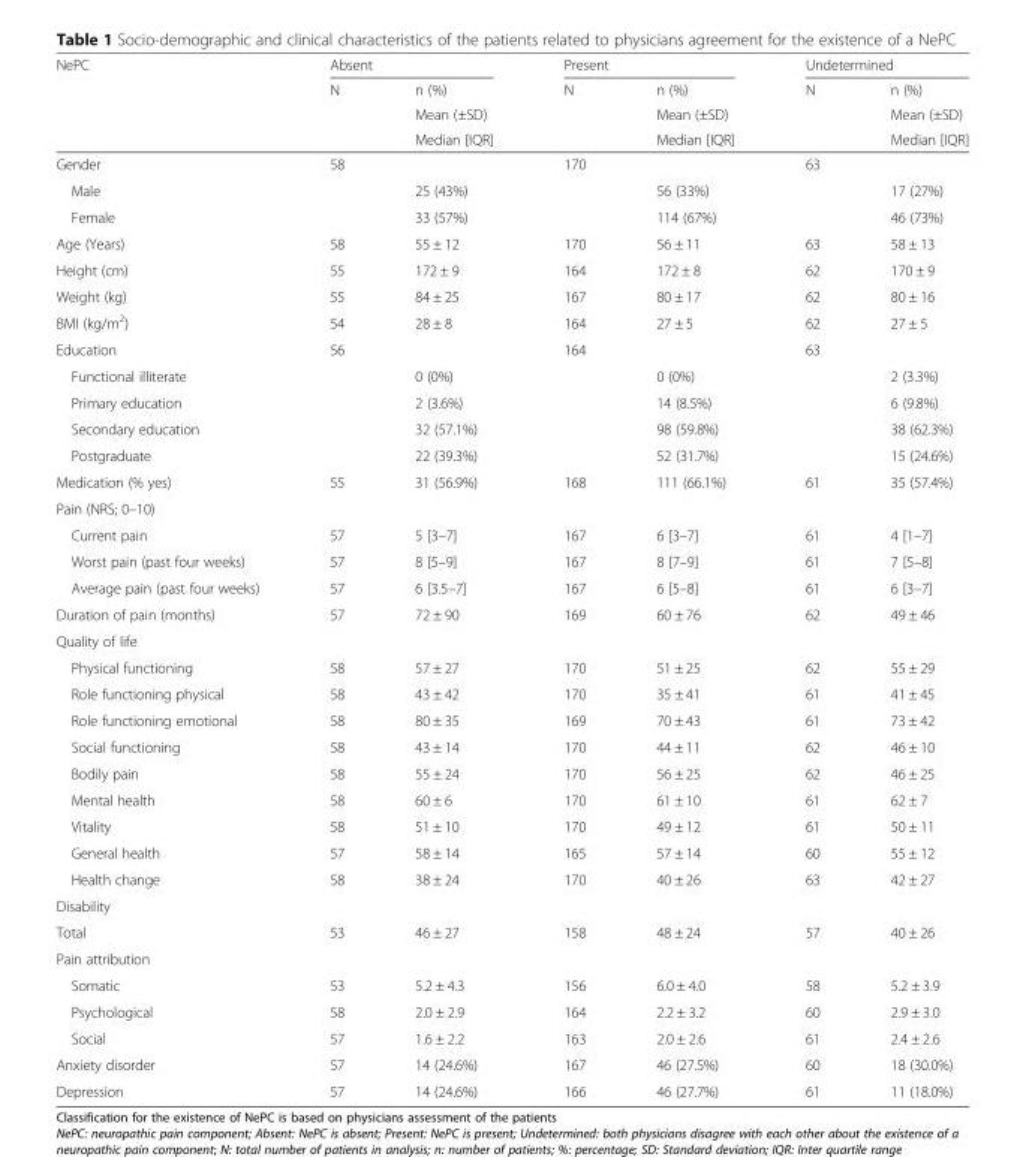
<table><thead><tr><td rowspan="4">NePC</td><td colspan="2">Absent</td><td colspan="2">Present</td><td colspan="2">Undetermined</td></tr><tr><td rowspan="3">N</td><td rowspan="3">n (%) Mean (±SD) Median [IQR]</td><td rowspan="3">N</td><td rowspan="3">n (%) Mean (±SD) Median [IQR]</td><td rowspan="3">N</td><td rowspan="3">n (%) Mean (±SD) Median [IQR]</td></tr><tr></tr><tr></tr></thead><tbody><tr><td>Gender</td><td>58</td><td></td><td>170</td><td></td><td>63</td><td></td></tr><tr><td>Male</td><td></td><td>25 (43%)</td><td></td><td>56 (33%)</td><td></td><td>17 (27%)</td></tr><tr><td>Female</td><td></td><td>33 (57%)</td><td></td><td>114 (67%)</td><td></td><td>46 (73%)</td></tr><tr><td>Age (Years)</td><td>58</td><td>55 ± 12</td><td>170</td><td>56 ± 11</td><td>63</td><td>58 ± 13</td></tr><tr><td>Height (cm)</td><td>55</td><td>172 ± 9</td><td>164</td><td>172 ± 8</td><td>62</td><td>170 ± 9</td></tr><tr><td>Weight (kg)</td><td>55</td><td>84 ± 25</td><td>167</td><td>80 ± 17</td><td>62</td><td>80 ± 16</td></tr><tr><td>BMI (kg/m<sup>2</sup>)</td><td>54</td><td>28 ± 8</td><td>164</td><td>27 ± 5</td><td>62</td><td>27 ± 5</td></tr><tr><td>Education</td><td>56</td><td></td><td>164</td><td></td><td>63</td><td></td></tr><tr><td>Functional illiterate</td><td></td><td>0 (0%)</td><td></td><td>0 (0%)</td><td></td><td>2 (3.3%)</td></tr><tr><td>Primary education</td><td></td><td>2 (3.6%)</td><td></td><td>14 (8.5%)</td><td></td><td>6 (9.8%)</td></tr><tr><td>Secondary education</td><td></td><td>32 (57.1%)</td><td></td><td>98 (59.8%)</td><td></td><td>38 (62.3%)</td></tr><tr><td>Postgraduate</td><td></td><td>22 (39.3%)</td><td></td><td>52 (31.7%)</td><td></td><td>15 (24.6%)</td></tr><tr><td>Medication (% yes)</td><td>55</td><td>31 (56.9%)</td><td>168</td><td>111 (66.1%)</td><td>61</td><td>35 (57.4%)</td></tr><tr><td colspan="7">Pain (NRS; 0–10)</td></tr><tr><td>Current pain</td><td>57</td><td>5 [3–7]</td><td>167</td><td>6 [3–7]</td><td>61</td><td>4 [1–7]</td></tr><tr><td>Worst pain (past four weeks)</td><td>57</td><td>8 [5–9]</td><td>167</td><td>8 [7–9]</td><td>61</td><td>7 [5–8]</td></tr><tr><td>Average pain (past four weeks)</td><td>57</td><td>6 [3.5–7]</td><td>167</td><td>6 [5–8]</td><td>61</td><td>6 [3–7]</td></tr><tr><td>Duration of pain (months)</td><td>57</td><td>72 ± 90</td><td>169</td><td>60 ± 76</td><td>62</td><td>49 ± 46</td></tr><tr><td colspan="7">Quality of life</td></tr><tr><td>Physical functioning</td><td>58</td><td>57 ± 27</td><td>170</td><td>51 ± 25</td><td>62</td><td>55 ± 29</td></tr><tr><td>Role functioning physical</td><td>58</td><td>43 ± 42</td><td>170</td><td>35 ± 41</td><td>61</td><td>41 ± 45</td></tr><tr><td>Role functioning emotional</td><td>58</td><td>80 ± 35</td><td>169</td><td>70 ± 43</td><td>61</td><td>73 ± 42</td></tr><tr><td>Social functioning</td><td>58</td><td>43 ± 14</td><td>170</td><td>44 ± 11</td><td>62</td><td>46 ± 10</td></tr><tr><td>Bodily pain</td><td>58</td><td>55 ± 24</td><td>170</td><td>56 ± 25</td><td>62</td><td>46 ± 25</td></tr><tr><td>Mental health</td><td>58</td><td>60 ± 6</td><td>170</td><td>61 ± 10</td><td>61</td><td>62 ± 7</td></tr><tr><td>Vitality</td><td>58</td><td>51 ± 10</td><td>170</td><td>49 ± 12</td><td>61</td><td>50 ± 11</td></tr><tr><td>General health</td><td>57</td><td>58 ± 14</td><td>165</td><td>57 ± 14</td><td>60</td><td>55 ± 12</td></tr><tr><td>Health change</td><td>58</td><td>38 ± 24</td><td>170</td><td>40 ± 26</td><td>63</td><td>42 ± 27</td></tr><tr><td colspan="7">Disability</td></tr><tr><td>Total</td><td>53</td><td>46 ± 27</td><td>158</td><td>48 ± 24</td><td>57</td><td>40 ± 26</td></tr><tr><td colspan="7">Pain attribution</td></tr><tr><td>Somatic</td><td>53</td><td>5.2 ± 4.3</td><td>156</td><td>6.0 ± 4.0</td><td>58</td><td>5.2 ± 3.9</td></tr><tr><td>Psychological</td><td>58</td><td>2.0 ± 2.9</td><td>164</td><td>2.2 ± 3.2</td><td>60</td><td>2.9 ± 3.0</td></tr><tr><td>Social</td><td>57</td><td>1.6 ± 2.2</td><td>163</td><td>2.0 ± 2.6</td><td>61</td><td>2.4 ± 2.6</td></tr><tr><td>Anxiety disorder</td><td>57</td><td>14 (24.6%)</td><td>167</td><td>46 (27.5%)</td><td>60</td><td>18 (30.0%)</td></tr><tr><td>Depression</td><td>57</td><td>14 (24.6%)</td><td>166</td><td>46 (27.7%)</td><td>61</td><td>11 (18.0%)</td></tr></tbody></table>